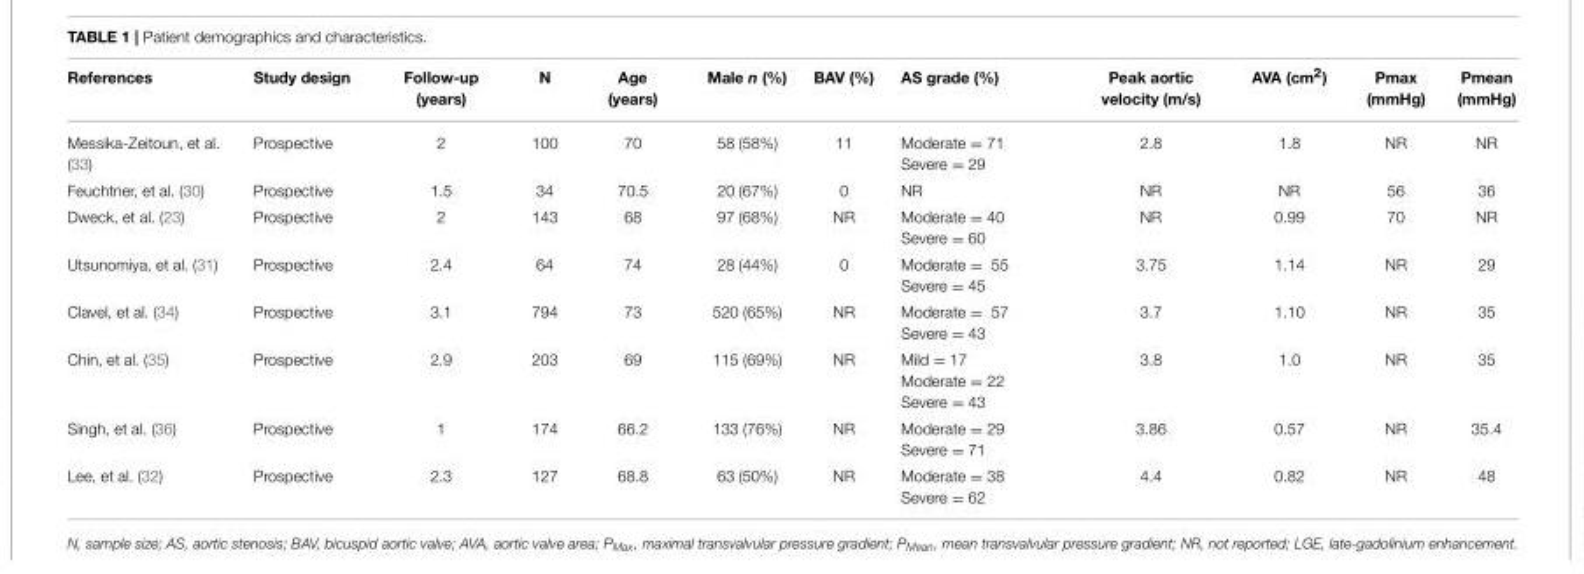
<table><thead><tr><td>References</td><td>Study design</td><td>Follow-up (years)</td><td>N</td><td>Age (years)</td><td>Male n (%)</td><td>BAV (%)</td><td>AS grade (%)</td><td>Peak aortic velocity (m/s)</td><td>AVA (cm<sup>2</sup>)</td><td>Pmax (mmHg)</td><td>Pmean (mmHg)</td></tr></thead><tbody><tr><td>Messika-Zeitoun, et al. (33)</td><td>Prospective</td><td>2</td><td>100</td><td>70</td><td>58 (58%)</td><td>11</td><td>Moderate = 71 Severe = 29</td><td>2.8</td><td>1.8</td><td>NR</td><td>NR</td></tr><tr><td>Feuchtner, et al. (30)</td><td>Prospective</td><td>1.5</td><td>34</td><td>70.5</td><td>20 (67%)</td><td>0</td><td>NR</td><td>NR</td><td>NR</td><td>56</td><td>36</td></tr><tr><td>Dweck, et al. (23)</td><td>Prospective</td><td>2</td><td>143</td><td>68</td><td>97 (68%)</td><td>NR</td><td>Moderate = 40 Severe = 60</td><td>NR</td><td>0.99</td><td>70</td><td>NR</td></tr><tr><td>Utsunomiya, et al. (31)</td><td>Prospective</td><td>2.4</td><td>64</td><td>74</td><td>28 (44%)</td><td>0</td><td>Moderate = 55 Severe = 45</td><td>3.75</td><td>1.14</td><td>NR</td><td>29</td></tr><tr><td>Clavel, et al. (34)</td><td>Prospective</td><td>3.1</td><td>794</td><td>73</td><td>520 (65%)</td><td>NR</td><td>Moderate = 57 Severe = 43</td><td>3.7</td><td>1.10</td><td>NR</td><td>35</td></tr><tr><td>Chin, et al. (35)</td><td>Prospective</td><td>2.9</td><td>203</td><td>69</td><td>115 (69%)</td><td>NR</td><td>Mild = 17 Moderate = 22 Severe = 43</td><td>3.8</td><td>1.0</td><td>NR</td><td>35</td></tr><tr><td>Singh, et al. (36)</td><td>Prospective</td><td>1</td><td>174</td><td>66.2</td><td>133 (76%)</td><td>NR</td><td>Moderate = 29 Severe = 71</td><td>3.86</td><td>0.57</td><td>NR</td><td>35.4</td></tr><tr><td>Lee, et al. (32)</td><td>Prospective</td><td>2.3</td><td>127</td><td>68.8</td><td>63 (50%)</td><td>NR</td><td>Moderate = 38 Severe = 62</td><td>4.4</td><td>0.82</td><td>NR</td><td>48</td></tr></tbody></table>